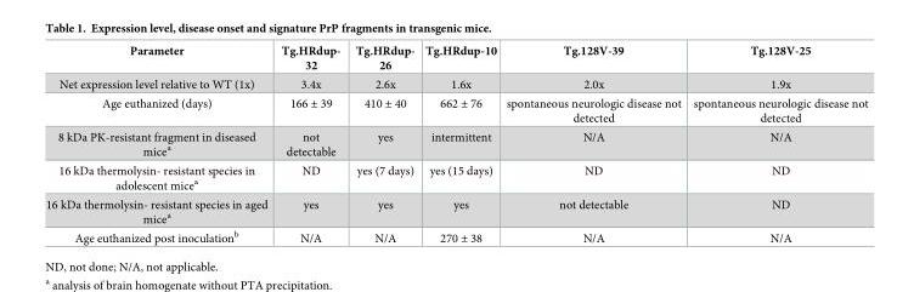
<table><thead><tr><td>Parameter</td><td>Tg.HRdup- 32</td><td>Tg.HRdup- 26</td><td>Tg.HRdup-10</td><td>Tg.128V-39</td><td>Tg.128V-25</td></tr></thead><tbody><tr><td>Net expression level relative to WT (1x)</td><td>3.4x</td><td>2.6x</td><td>1.6x</td><td>2.0x</td><td>1.9x</td></tr><tr><td>Age euthanized (days)</td><td>166 ± 39</td><td>410 ± 40</td><td>662 ± 76</td><td>spontaneous neurologic disease not detected</td><td>spontaneous neurologic disease not detected</td></tr><tr><td>8 kDa PK-resistant fragment in diseased mice<sup>a</sup></td><td>not detectable</td><td>yes</td><td>intermittent</td><td>N/A</td><td>N/A</td></tr><tr><td>16 kDa thermolysin- resistant species in adolescent mice<sup>a</sup></td><td>ND</td><td>yes (7 days)</td><td>yes (15 days)</td><td>ND</td><td>ND</td></tr><tr><td>16 kDa thermolysin- resistant species in aged mice<sup>a</sup></td><td>yes</td><td>yes</td><td>yes</td><td>not detectable</td><td>ND</td></tr><tr><td>Age euthanized post inoculation<sup>b</sup></td><td>N/A</td><td>N/A</td><td>270 ± 38</td><td>N/A</td><td>N/A</td></tr></tbody></table>